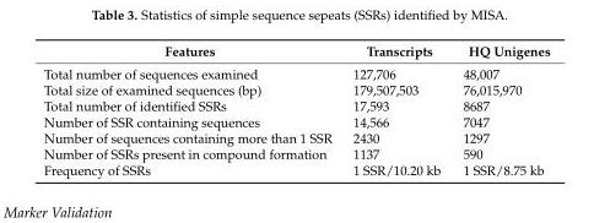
<table><thead><tr><td>Features</td><td>Transcripts</td><td>HQ Unigenes</td></tr></thead><tbody><tr><td>Total number of sequences examined</td><td>127,706</td><td>48,007</td></tr><tr><td>Total size of examined sequences (bp)</td><td>179,507,503</td><td>76,015,970</td></tr><tr><td>Total number of identified SSRs</td><td>17,593</td><td>8687</td></tr><tr><td>Number of SSR containing sequences</td><td>14,566</td><td>7047</td></tr><tr><td>Number of sequences containing more than 1 SSR</td><td>2430</td><td>1297</td></tr><tr><td>Number of SSRs present in compound formation</td><td>1137</td><td>590</td></tr><tr><td>Frequency of SSRs</td><td>1 SSR/10.20 kb</td><td>1 SSR/8.75 kb</td></tr></tbody></table>